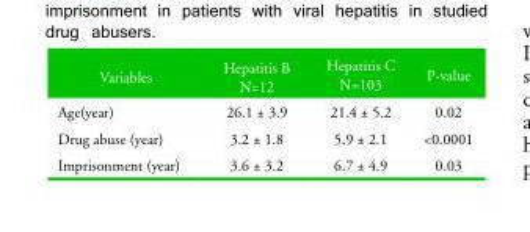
<table><thead><tr><td>Variables</td><td>Hepatitis B N=12</td><td>Hepatitis C N=103</td><td>P-value</td></tr></thead><tbody><tr><td>Age(year)</td><td>26.1 ± 3.9</td><td>21.4 ± 5.2</td><td>0.02</td></tr><tr><td>Drug abuse (year)</td><td>3.2 ± 1.8</td><td>5.9 ± 2.1</td><td>&lt;0.0001</td></tr><tr><td>Imprisonment (year)</td><td>3.6 ± 3.2</td><td>6.7 ± 4.9</td><td>0.03</td></tr></tbody></table>